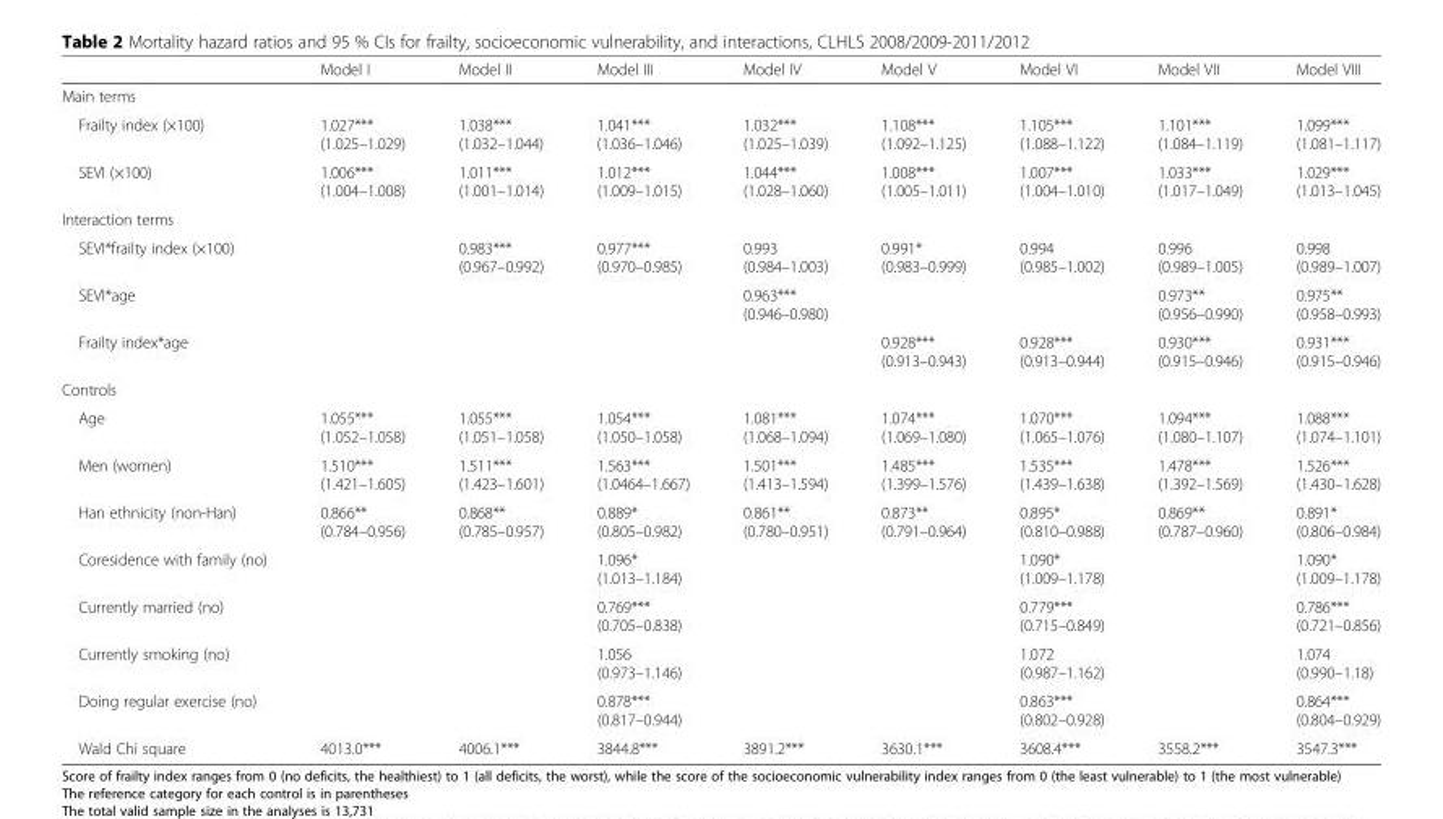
<table><thead><tr><td></td><td>Model I</td><td>Model II</td><td>Model III</td><td>Model IV</td><td>Model V</td><td>Model VI</td><td>Model VII</td><td>Model VIII</td></tr></thead><tbody><tr><td colspan="9">Main terms</td></tr><tr><td>Frailty index (×100)</td><td>1.027*** (1.025–1.029)</td><td>1.038*** (1.032–1.044)</td><td>1.041*** (1.036–1.046)</td><td>1.032*** (1.025–1.039)</td><td>1.108*** (1.092–1.125)</td><td>1.105*** (1.088–1.122)</td><td>1.101*** (1.084–1.119)</td><td>1.099*** (1.081–1.117)</td></tr><tr><td>SEVI (×100)</td><td>1.006*** (1.004–1.008)</td><td>1.011*** (1.001–1.014)</td><td>1.012*** (1.009–1.015)</td><td>1.044*** (1.028–1.060)</td><td>1.008*** (1.005–1.011)</td><td>1.007*** (1.004–1.010)</td><td>1.033*** (1.017–1.049)</td><td>1.029*** (1.013–1.045)</td></tr><tr><td colspan="9">Interaction terms</td></tr><tr><td>SEVI*frailty index (×100)</td><td></td><td>0.983*** (0.967–0.992)</td><td>0.977*** (0.970–0.985)</td><td>0.993 (0.984–1.003)</td><td>0.991* (0.983–0.999)</td><td>0.994 (0.985–1.002)</td><td>0.996 (0.989–1.005)</td><td>0.998 (0.989–1.007)</td></tr><tr><td>SEVI*age</td><td></td><td></td><td></td><td>0.963*** (0.946–0.980)</td><td></td><td></td><td>0.973** (0.956–0.990)</td><td>0.975** (0.958–0.993)</td></tr><tr><td>Frailty index*age</td><td></td><td></td><td></td><td></td><td>0.928*** (0.913–0.943)</td><td>0.928*** (0.913–0.944)</td><td>0.930*** (0.915–0.946)</td><td>0.931*** (0.915–0.946)</td></tr><tr><td colspan="9">Controls</td></tr><tr><td>Age</td><td>1.055*** (1.052–1.058)</td><td>1.055*** (1.051–1.058)</td><td>1.054*** (1.050–1.058)</td><td>1.081*** (1.068–1.094)</td><td>1.074*** (1.069–1.080)</td><td>1.070*** (1.065–1.076)</td><td>1.094*** (1.080–1.107)</td><td>1.088*** (1.074–1.101)</td></tr><tr><td>Men (women)</td><td>1.510*** (1.421–1.605)</td><td>1.511*** (1.423–1.601)</td><td>1.563*** (1.0464–1.667)</td><td>1.501*** (1.413–1.594)</td><td>1.485*** (1.399–1.576)</td><td>1.535*** (1.439–1.638)</td><td>1.478*** (1.392–1.569)</td><td>1.526*** (1.430–1.628)</td></tr><tr><td>Han ethnicity (non-Han)</td><td>0.866** (0.784–0.956)</td><td>0.868** (0.785–0.957)</td><td>0.889* (0.805–0.982)</td><td>0.861** (0.780–0.951)</td><td>0.873** (0.791–0.964)</td><td>0.895* (0.810–0.988)</td><td>0.869** (0.787–0.960)</td><td>0.891* (0.806–0.984)</td></tr><tr><td>Coresidence with family (no)</td><td></td><td></td><td>1.096* (1.013–1.184)</td><td></td><td></td><td>1.090* (1.009–1.178)</td><td></td><td>1.090* (1.009–1.178)</td></tr><tr><td>Currently married (no)</td><td></td><td></td><td>0.769*** (0.705–0.838)</td><td></td><td></td><td>0.779*** (0.715–0.849)</td><td></td><td>0.786*** (0.721–0.856)</td></tr><tr><td>Currently smoking (no)</td><td></td><td></td><td>1.056 (0.973–1.146)</td><td></td><td></td><td>1.072 (0.987–1.162)</td><td></td><td>1.074 (0.990–1.18)</td></tr><tr><td>Doing regular exercise (no)</td><td></td><td></td><td>0.878*** (0.817–0.944)</td><td></td><td></td><td>0.863*** (0.802–0.928)</td><td></td><td>0.864*** (0.804–0.929)</td></tr><tr><td>Wald Chi square</td><td>4013.0***</td><td>4006.1***</td><td>3844.8***</td><td>3891.2***</td><td>3630.1***</td><td>3608.4***</td><td>3558.2***</td><td>3547.3***</td></tr></tbody></table>